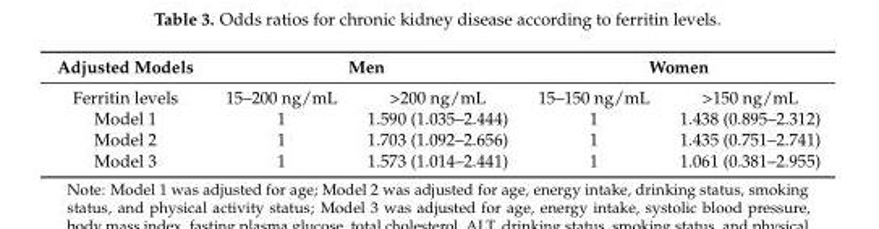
<table><thead><tr><td rowspan="2">Adjusted Models Ferritin levels</td><td colspan="2">Men</td><td colspan="2">Women</td></tr><tr><td>15–200 ng/mL</td><td>&gt;200 ng/mL</td><td>15–150 ng/mL</td><td>&gt;150 ng/mL</td></tr></thead><tbody><tr><td>Model 1</td><td>1</td><td>1.590 (1.035–2.444)</td><td>1</td><td>1.438 (0.895–2.312)</td></tr><tr><td>Model 2</td><td>1</td><td>1.703 (1.092–2.656)</td><td>1</td><td>1.435 (0.751–2.741)</td></tr><tr><td>Model 3</td><td>1</td><td>1.573 (1.014–2.441)</td><td>1</td><td>1.061 (0.381–2.955)</td></tr></tbody></table>